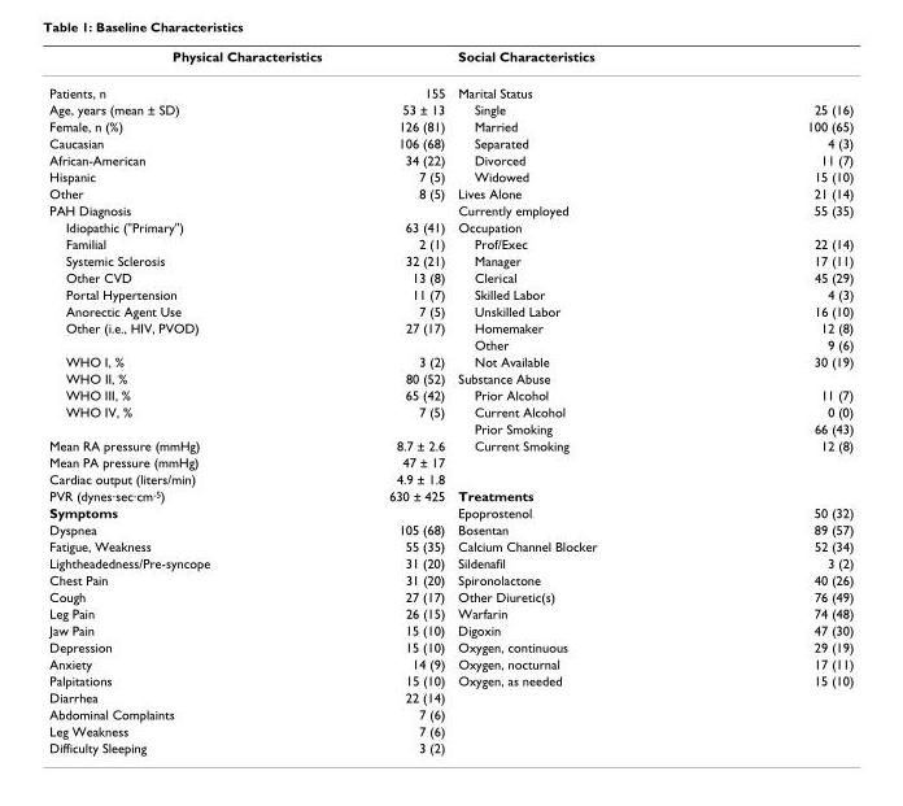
<table><thead><tr><td colspan="2">Physical Characteristics</td><td colspan="2">Social Characteristics</td></tr><tr><td>Patients, n</td><td>155</td><td>Marital Status</td><td></td></tr></thead><tbody><tr><td>Age, years (mean ± SD)</td><td>53 ± 13</td><td>Single</td><td>25 (16)</td></tr><tr><td>Female, n (%)</td><td>126 (81)</td><td>Married</td><td>100 (65)</td></tr><tr><td>Caucasian</td><td>106 (68)</td><td>Separated</td><td>4 (3)</td></tr><tr><td>African-American</td><td>34 (22)</td><td>Divorced</td><td>11 (7)</td></tr><tr><td>Hispanic</td><td>7 (5)</td><td>Widowed</td><td>15 (10)</td></tr><tr><td>Other</td><td>8 (5)</td><td>Lives Alone</td><td>21 (14)</td></tr><tr><td>PAH Diagnosis</td><td></td><td>Currently employed</td><td>55 (35)</td></tr><tr><td>Idiopathic (&quot;Primary&quot;)</td><td>63 (41)</td><td>Occupation</td><td></td></tr><tr><td>Familial</td><td>2 (1)</td><td>Prof/Exec</td><td>22 (14)</td></tr><tr><td>Systemic Sclerosis</td><td>32 (21)</td><td>Manager</td><td>17 (11)</td></tr><tr><td>Other CVD</td><td>13 (8)</td><td>Clerical</td><td>45 (29)</td></tr><tr><td>Portal Hypertension</td><td>11 (7)</td><td>Skilled Labor</td><td>4 (3)</td></tr><tr><td>Anorectic Agent Use</td><td>7 (5)</td><td>Unskilled Labor</td><td>16 (10)</td></tr><tr><td rowspan="2">Other (i.e., HIV, PVOD)</td><td>27 (17)</td><td>Homemaker</td><td>12 (8)</td></tr><tr><td></td><td>Other</td><td>9 (6)</td></tr><tr><td>WHO I, %</td><td>3 (2)</td><td>Not Available</td><td>30 (19)</td></tr><tr><td>WHO II, %</td><td>80 (52)</td><td>Substance Abuse</td><td></td></tr><tr><td>WHO III, %</td><td>65 (42)</td><td>Prior Alcohol</td><td>11 (7)</td></tr><tr><td rowspan="2">WHO IV, %</td><td>7 (5)</td><td>Current Alcohol</td><td>0 (0)</td></tr><tr><td></td><td>Prior Smoking</td><td>66 (43)</td></tr><tr><td>Mean RA pressure (mmHg)</td><td>8.7 ± 2.6</td><td>Current Smoking</td><td>12 (8)</td></tr><tr><td>Mean PA pressure (mmHg)</td><td>47 ± 17</td><td></td><td></td></tr><tr><td>Cardiac output (liters/min)</td><td>4.9 ± 1.8</td><td></td><td></td></tr><tr><td>PVR (dynes·sec·cm<sup>-5</sup>)</td><td>630 ± 425</td><td>Treatments</td><td></td></tr><tr><td>Symptoms</td><td></td><td>Epoprostenol</td><td>50 (32)</td></tr><tr><td>Dyspnea</td><td>105 (68)</td><td>Bosentan</td><td>89 (57)</td></tr><tr><td>Fatigue, Weakness</td><td>55 (35)</td><td>Calcium Channel Blocker</td><td>52 (34)</td></tr><tr><td>Lightheadedness/Pre-syncope</td><td>31 (20)</td><td>Sildenafil</td><td>3 (2)</td></tr><tr><td>Chest Pain</td><td>31 (20)</td><td>Spironolactone</td><td>40 (26)</td></tr><tr><td>Cough</td><td>27 (17)</td><td>Other Diuretic(s)</td><td>76 (49)</td></tr><tr><td>Leg Pain</td><td>26 (15)</td><td>Warfarin</td><td>74 (48)</td></tr><tr><td>Jaw Pain</td><td>15 (10)</td><td>Digoxin</td><td>47 (30)</td></tr><tr><td>Depression</td><td>15 (10)</td><td>Oxygen, continuous</td><td>29 (19)</td></tr><tr><td>Anxiety</td><td>14 (9)</td><td>Oxygen, nocturnal</td><td>17 (11)</td></tr><tr><td>Palpitations</td><td>15 (10)</td><td>Oxygen, as needed</td><td>15 (10)</td></tr><tr><td>Diarrhea</td><td>22 (14)</td><td></td><td></td></tr><tr><td>Abdominal Complaints</td><td>7 (6)</td><td></td><td></td></tr><tr><td>Leg Weakness</td><td>7 (6)</td><td></td><td></td></tr><tr><td>Difficulty Sleeping</td><td>3 (2)</td><td></td><td></td></tr></tbody></table>